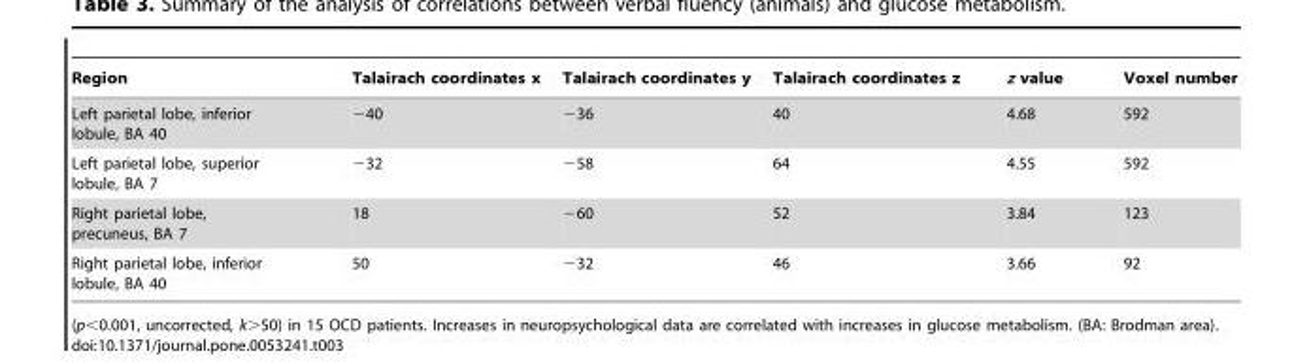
<table><thead><tr><td>Region</td><td>Talairach coordinates x</td><td>Talairach coordinates y</td><td>Talairach coordinates z</td><td>z value</td><td>Voxel number</td></tr></thead><tbody><tr><td>Left parietal lobe, inferior lobule, BA 40</td><td>−40</td><td>−36</td><td>40</td><td>4.68</td><td>592</td></tr><tr><td>Left parietal lobe, superior lobule, BA 7</td><td>−32</td><td>−58</td><td>64</td><td>4.55</td><td>592</td></tr><tr><td>Right parietal lobe, precuneus, BA 7</td><td>18</td><td>−60</td><td>52</td><td>3.84</td><td>123</td></tr><tr><td>Right parietal lobe, inferior lobule, BA 40</td><td>50</td><td>−32</td><td>46</td><td>3.66</td><td>92</td></tr></tbody></table>